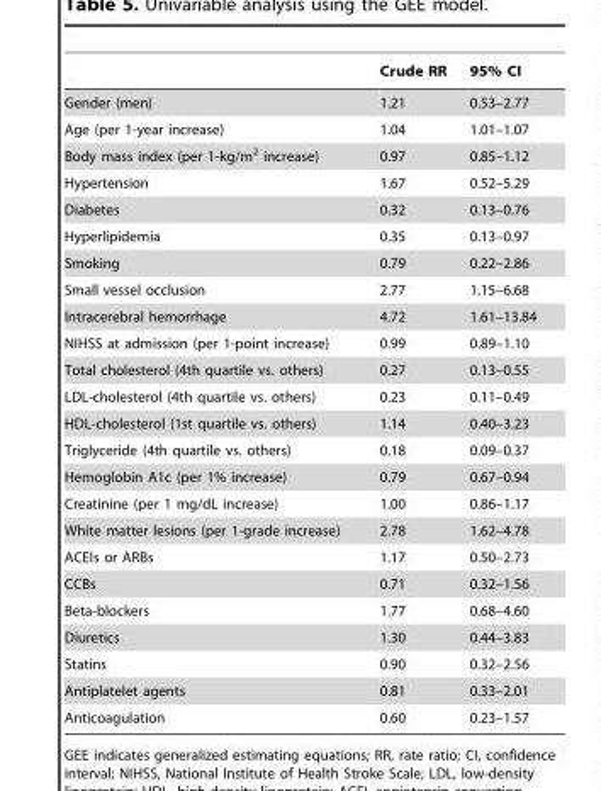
<table><thead><tr><td></td><td>Crude RR</td><td>95% CI</td></tr></thead><tbody><tr><td>Gender (men)</td><td>1.21</td><td>0.53–2.77</td></tr><tr><td>Age (per 1-year increase)</td><td>1.04</td><td>1.01–1.07</td></tr><tr><td>Body mass index (per 1-kg/m<sup>2</sup> increase)</td><td>0.97</td><td>0.85–1.12</td></tr><tr><td>Hypertension</td><td>1.67</td><td>0.52–5.29</td></tr><tr><td>Diabetes</td><td>0.32</td><td>0.13–0.76</td></tr><tr><td>Hyperlipidemia</td><td>0.35</td><td>0.13–0.97</td></tr><tr><td>Smoking</td><td>0.79</td><td>0.22–2.86</td></tr><tr><td>Small vessel occlusion</td><td>2.77</td><td>1.15–6.68</td></tr><tr><td>Intracerebral hemorrhage</td><td>4.72</td><td>1.61–13.84</td></tr><tr><td>NIHSS at admission (per 1-point increase)</td><td>0.99</td><td>0.89–1.10</td></tr><tr><td>Total cholesterol (4th quartile vs. others)</td><td>0.27</td><td>0.13–0.55</td></tr><tr><td>LDL-cholesterol (4th quartile vs. others)</td><td>0.23</td><td>0.11–0.49</td></tr><tr><td>HDL-cholesterol (1st quartile vs. others)</td><td>1.14</td><td>0.40–3.23</td></tr><tr><td>Triglyceride (4th quartile vs. others)</td><td>0.18</td><td>0.09–0.37</td></tr><tr><td>Hemoglobin A1c (per 1% increase)</td><td>0.79</td><td>0.67–0.94</td></tr><tr><td>Creatinine (per 1 mg/dL increase)</td><td>1.00</td><td>0.86–1.17</td></tr><tr><td>White matter lesions (per 1-grade increase)</td><td>2.78</td><td>1.62–4.78</td></tr><tr><td>ACEIs or ARBs</td><td>1.17</td><td>0.50–2.73</td></tr><tr><td>CCBs</td><td>0.71</td><td>0.32–1.56</td></tr><tr><td>Beta-blockers</td><td>1.77</td><td>0.68–4.60</td></tr><tr><td>Diuretics</td><td>1.30</td><td>0.44–3.83</td></tr><tr><td>Statins</td><td>0.90</td><td>0.32–2.56</td></tr><tr><td>Antiplatelet agents</td><td>0.81</td><td>0.33–2.01</td></tr><tr><td>Anticoagulation</td><td>0.60</td><td>0.23–1.57</td></tr></tbody></table>